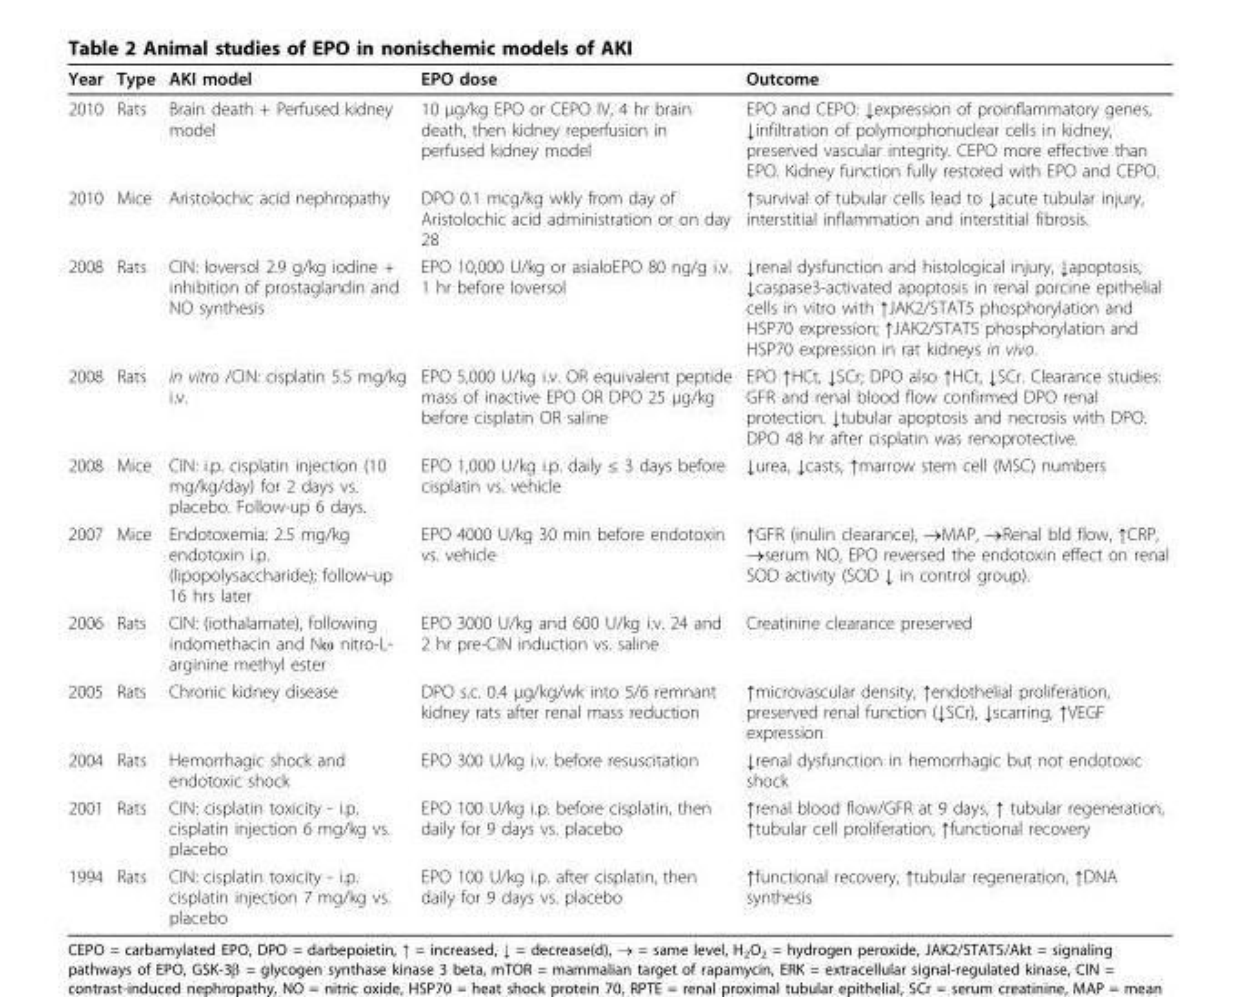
<table><thead><tr><td>Year</td><td>Type</td><td>AKI model</td><td>EPO dose</td><td>Outcome</td></tr></thead><tbody><tr><td>2010</td><td>Rats</td><td>Brain death + Perfused kidney model</td><td>10 μg/kg EPO or CEPO IV, 4 hr brain death, then kidney reperfusion in perfused kidney model</td><td>EPO and CEPO: ↓expression of proinflammatory genes, ↓infiltration of polymorphonuclear cells in kidney, preserved vascular integrity. CEPO more effective than EPO. Kidney function fully restored with EPO and CEPO.</td></tr><tr><td>2010</td><td>Mice</td><td>Aristolochic acid nephropathy</td><td>DPO 0.1 mcg/kg wkly from day of Aristolochic acid administration or on day 28</td><td>↑survival of tubular cells lead to ↓acute tubular injury, interstitial inflammation and interstitial fibrosis.</td></tr><tr><td>2008</td><td>Rats</td><td>CIN: Ioversol 2.9 g/kg iodine + inhibition of prostaglandin and NO synthesis</td><td>EPO 10,000 U/kg or asialoEPO 80 ng/g i.v. 1 hr before Ioversol</td><td>↓renal dysfunction and histological injury, ↓apoptosis, ↓caspase3-activated apoptosis in renal porcine epithelial cells in vitro with ↑JAK2/STAT5 phosphorylation and HSP70 expression; ↑JAK2/STAT5 phosphorylation and HSP70 expression in rat kidneys in vivo.</td></tr><tr><td>2008</td><td>Rats</td><td>in vitro /CIN: cisplatin 5.5 mg/kg i.v.</td><td>EPO 5,000 U/kg i.v. OR equivalent peptide mass of inactive EPO OR DPO 25 μg/kg before cisplatin OR saline</td><td>EPO ↑HCt, ↓SCr; DPO also ↑HCt, ↓SCr. Clearance studies: GFR and renal blood flow confirmed DPO renal protection. ↓tubular apoptosis and necrosis with DPO. DPO 48 hr after cisplatin was renoprotective.</td></tr><tr><td>2008</td><td>Mice</td><td>CIN: i.p. cisplatin injection (10 mg/kg/day) for 2 days vs. placebo. Follow-up 6 days.</td><td>EPO 1,000 U/kg i.p. daily ≤ 3 days before cisplatin vs. vehicle</td><td>↓urea, ↓casts, ↑marrow stem cell (MSC) numbers</td></tr><tr><td>2007</td><td>Mice</td><td>Endotoxemia: 2.5 mg/kg endotoxin i.p. (lipopolysaccharide); follow-up 16 hrs later</td><td>EPO 4000 U/kg 30 min before endotoxin vs. vehicle</td><td>↑GFR (inulin clearance), →MAP, →Renal bld flow, ↑CRP, →serum NO, EPO reversed the endotoxin effect on renal SOD activity (SOD ↓ in control group).</td></tr><tr><td>2006</td><td>Rats</td><td>CIN: (iothalamate), following indomethacin and Nω nitro-L- arginine methyl ester</td><td>EPO 3000 U/kg and 600 U/kg i.v. 24 and 2 hr pre-CIN induction vs. saline</td><td>Creatinine clearance preserved</td></tr><tr><td>2005</td><td>Rats</td><td>Chronic kidney disease</td><td>DPO s.c. 0.4 μg/kg/wk into 5/6 remnant kidney rats after renal mass reduction</td><td>↑microvascular density, ↑endothelial proliferation, preserved renal function (↓SCr), ↓scarring, ↑VEGF expression</td></tr><tr><td>2004</td><td>Rats</td><td>Hemorrhagic shock and endotoxic shock</td><td>EPO 300 U/kg i.v. before resuscitation</td><td>↓renal dysfunction in hemorrhagic but not endotoxic shock</td></tr><tr><td>2001</td><td>Rats</td><td>CIN: cisplatin toxicity - i.p. cisplatin injection 6 mg/kg vs. placebo</td><td>EPO 100 U/kg i.p. before cisplatin, then daily for 9 days vs. placebo</td><td>↑renal blood flow/GFR at 9 days, ↑ tubular regeneration, ↑tubular cell proliferation, ↑functional recovery</td></tr><tr><td>1994</td><td>Rats</td><td>CIN: cisplatin toxicity - i.p. cisplatin injection 7 mg/kg vs. placebo</td><td>EPO 100 U/kg i.p. after cisplatin, then daily for 9 days vs. placebo</td><td>↑functional recovery, ↑tubular regeneration, ↑DNA synthesis</td></tr></tbody></table>